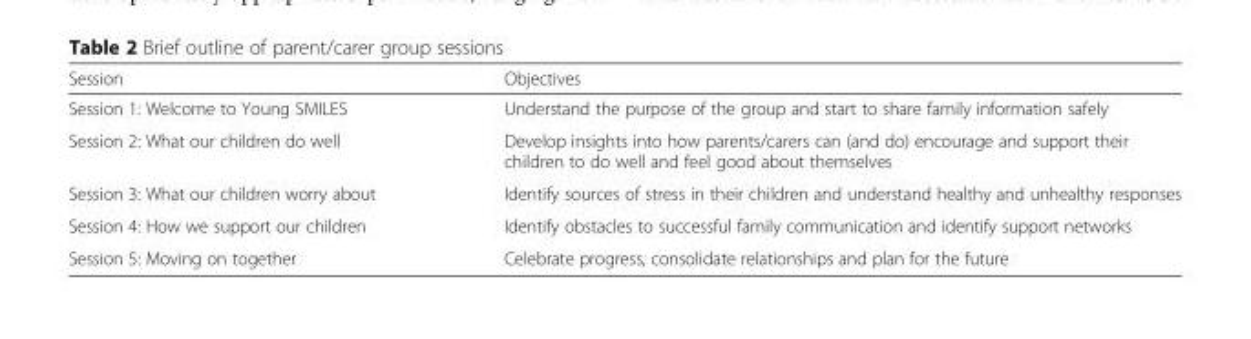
<table><thead><tr><td>Session</td><td>Objectives</td></tr></thead><tbody><tr><td>Session 1: Welcome to Young SMILES</td><td>Understand the purpose of the group and start to share family information safely</td></tr><tr><td>Session 2: What our children do well</td><td>Develop insights into how parents/carers can (and do) encourage and support their children to do well and feel good about themselves</td></tr><tr><td>Session 3: What our children worry about</td><td>Identify sources of stress in their children and understand healthy and unhealthy responses</td></tr><tr><td>Session 4: How we support our children</td><td>Identify obstacles to successful family communication and identify support networks</td></tr><tr><td>Session 5: Moving on together</td><td>Celebrate progress, consolidate relationships and plan for the future</td></tr></tbody></table>